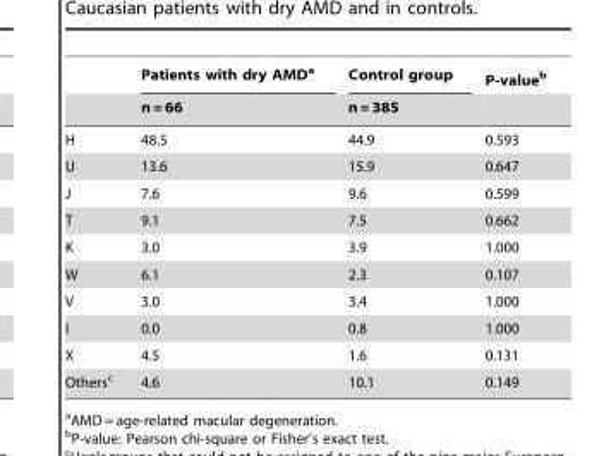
<table><thead><tr><td rowspan="2"></td><td rowspan="2">Patients with dry AMD<sup>a</sup> n = 66</td><td rowspan="2">Control group n = 385</td><td rowspan="2">P-value<sup>b</sup></td></tr><tr></tr></thead><tbody><tr><td>H</td><td>48.5</td><td>44.9</td><td>0.593</td></tr><tr><td>U</td><td>13.6</td><td>15.9</td><td>0.647</td></tr><tr><td>J</td><td>7.6</td><td>9.6</td><td>0.599</td></tr><tr><td>T</td><td>9.1</td><td>7.5</td><td>0.662</td></tr><tr><td>K</td><td>3.0</td><td>3.9</td><td>1.000</td></tr><tr><td>W</td><td>6.1</td><td>2.3</td><td>0.107</td></tr><tr><td>V</td><td>3.0</td><td>3.4</td><td>1.000</td></tr><tr><td>I</td><td>0.0</td><td>0.8</td><td>1.000</td></tr><tr><td>X</td><td>4.5</td><td>1.6</td><td>0.131</td></tr><tr><td>Others<sup>c</sup></td><td>4.6</td><td>10.1</td><td>0.149</td></tr></tbody></table>